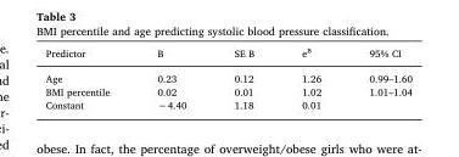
<table><thead><tr><td>Predictor</td><td>B</td><td>SE B</td><td>e<sup>B</sup></td><td>95% CI</td></tr></thead><tbody><tr><td>Age</td><td>0.23</td><td>0.12</td><td>1.26</td><td>0.99–1.60</td></tr><tr><td>BMI percentile</td><td>0.02</td><td>0.01</td><td>1.02</td><td>1.01–1.04</td></tr><tr><td>Constant</td><td>−4.40</td><td>1.18</td><td>0.01</td><td></td></tr></tbody></table>